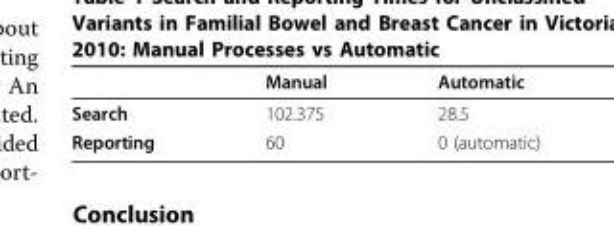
<table><thead><tr><td></td><td>Manual</td><td>Automatic</td></tr></thead><tbody><tr><td>Search</td><td>102.375</td><td>28.5</td></tr><tr><td>Reporting</td><td>60</td><td>0 (automatic)</td></tr></tbody></table>